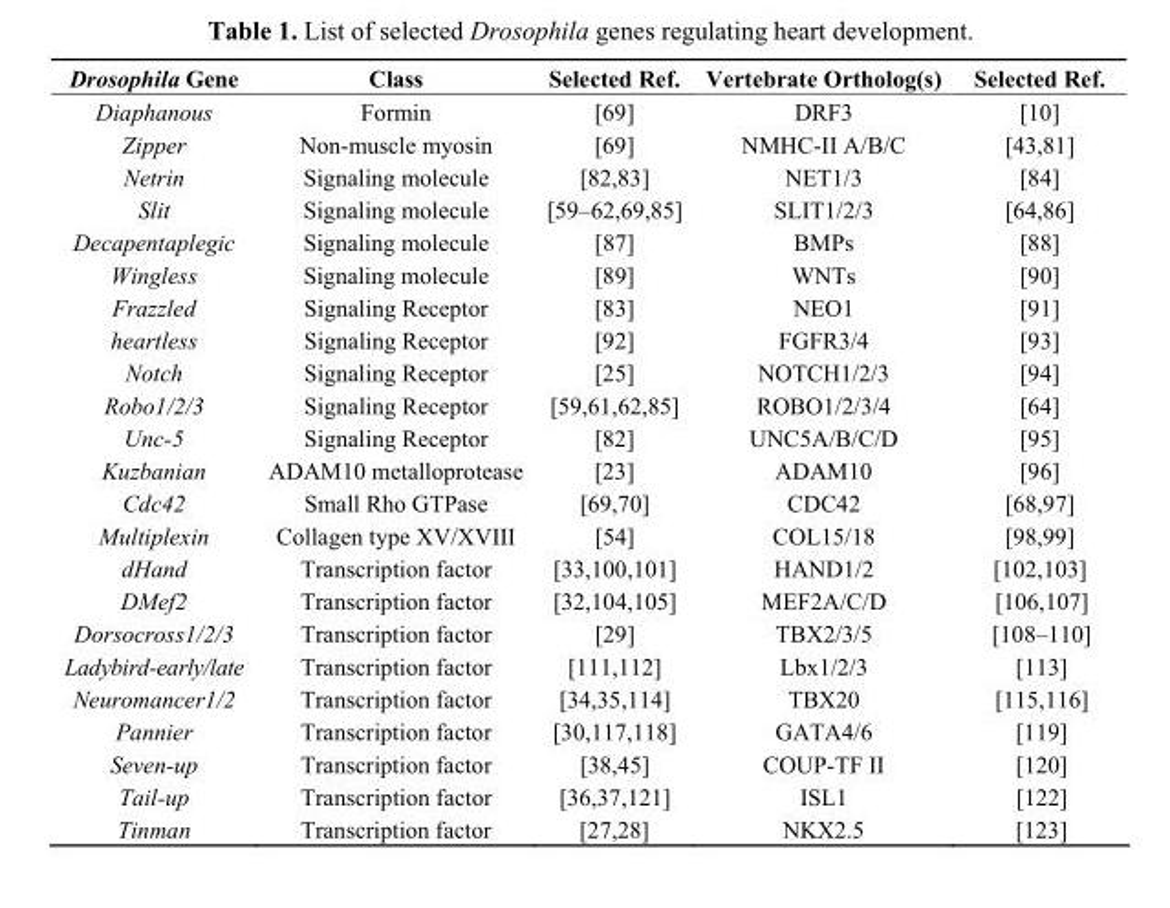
<table><thead><tr><td>Drosophila Gene</td><td>Class</td><td>Selected Ref.</td><td>Vertebrate Ortholog(s)</td><td>Selected Ref.</td></tr></thead><tbody><tr><td>Diaphanous</td><td>Formin</td><td>[69]</td><td>DRF3</td><td>[10]</td></tr><tr><td>Zipper</td><td>Non-muscle myosin</td><td>[69]</td><td>NMHC-II A/B/C</td><td>[43,81]</td></tr><tr><td>Netrin</td><td>Signaling molecule</td><td>[82,83]</td><td>NET1/3</td><td>[84]</td></tr><tr><td>Slit</td><td>Signaling molecule</td><td>[59–62,69,85]</td><td>SLIT1/2/3</td><td>[64,86]</td></tr><tr><td>Decapentaplegic</td><td>Signaling molecule</td><td>[87]</td><td>BMPs</td><td>[88]</td></tr><tr><td>Wingless</td><td>Signaling molecule</td><td>[89]</td><td>WNTs</td><td>[90]</td></tr><tr><td>Frazzled</td><td>Signaling Receptor</td><td>[83]</td><td>NEO1</td><td>[91]</td></tr><tr><td>heartless</td><td>Signaling Receptor</td><td>[92]</td><td>FGFR3/4</td><td>[93]</td></tr><tr><td>Notch</td><td>Signaling Receptor</td><td>[25]</td><td>NOTCH1/2/3</td><td>[94]</td></tr><tr><td>Robo1/2/3</td><td>Signaling Receptor</td><td>[59,61,62,85]</td><td>ROBO1/2/3/4</td><td>[64]</td></tr><tr><td>Unc-5</td><td>Signaling Receptor</td><td>[82]</td><td>UNC5A/B/C/D</td><td>[95]</td></tr><tr><td>Kuzbanian</td><td>ADAM10 metalloprotease</td><td>[23]</td><td>ADAM10</td><td>[96]</td></tr><tr><td>Cdc42</td><td>Small Rho GTPase</td><td>[69,70]</td><td>CDC42</td><td>[68,97]</td></tr><tr><td>Multiplexin</td><td>Collagen type XV/XVIII</td><td>[54]</td><td>COL15/18</td><td>[98,99]</td></tr><tr><td>dHand</td><td>Transcription factor</td><td>[33,100,101]</td><td>HAND1/2</td><td>[102,103]</td></tr><tr><td>DMef2</td><td>Transcription factor</td><td>[32,104,105]</td><td>MEF2A/C/D</td><td>[106,107]</td></tr><tr><td>Dorsocross1/2/3</td><td>Transcription factor</td><td>[29]</td><td>TBX2/3/5</td><td>[108–110]</td></tr><tr><td>Ladybird-early/late</td><td>Transcription factor</td><td>[111,112]</td><td>Lbx1/2/3</td><td>[113]</td></tr><tr><td>Neuromancer1/2</td><td>Transcription factor</td><td>[34,35,114]</td><td>TBX20</td><td>[115,116]</td></tr><tr><td>Pannier</td><td>Transcription factor</td><td>[30,117,118]</td><td>GATA4/6</td><td>[119]</td></tr><tr><td>Seven-up</td><td>Transcription factor</td><td>[38,45]</td><td>COUP-TF II</td><td>[120]</td></tr><tr><td>Tail-up</td><td>Transcription factor</td><td>[36,37,121]</td><td>ISL1</td><td>[122]</td></tr><tr><td>Tinman</td><td>Transcription factor</td><td>[27,28]</td><td>NKX2.5</td><td>[123]</td></tr></tbody></table>